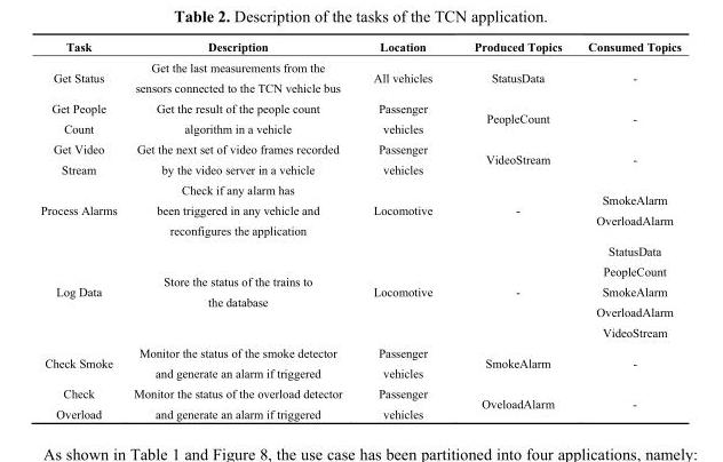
<table><thead><tr><td>Task</td><td>Description</td><td>Location</td><td>Produced Topics</td><td>Consumed Topics</td></tr></thead><tbody><tr><td>Get Status</td><td>Get the last measurements from the sensors connected to the TCN vehicle bus</td><td>All vehicles</td><td>StatusData</td><td>-</td></tr><tr><td>Get People Count</td><td>Get the result of the people count algorithm in a vehicle</td><td>Passenger vehicles</td><td>PeopleCount</td><td>-</td></tr><tr><td>Get Video Stream</td><td>Get the next set of video frames recorded by the video server in a vehicle</td><td>Passenger vehicles</td><td>VideoStream</td><td>-</td></tr><tr><td>Process Alarms</td><td>Check if any alarm has been triggered in any vehicle and reconfigures the application</td><td>Locomotive</td><td>-</td><td>SmokeAlarm OverloadAlarm</td></tr><tr><td>Log Data</td><td>Store the status of the trains to the database</td><td>Locomotive</td><td>-</td><td>StatusData PeopleCount SmokeAlarm OverloadAlarm VideoStream</td></tr><tr><td>Check Smoke</td><td>Monitor the status of the smoke detector and generate an alarm if triggered</td><td>Passenger vehicles</td><td>SmokeAlarm</td><td>-</td></tr><tr><td>Check Overload</td><td>Monitor the status of the overload detector and generate an alarm if triggered</td><td>Passenger vehicles</td><td>OveloadAlarm</td><td>-</td></tr></tbody></table>